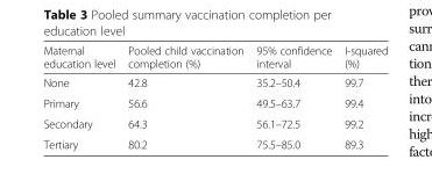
<table><thead><tr><td>Maternal education level</td><td>Pooled child vaccination completion (%)</td><td>95% confidence interval</td><td>I-squared (%)</td></tr></thead><tbody><tr><td>None</td><td>42.8</td><td>35.2–50.4</td><td>99.7</td></tr><tr><td>Primary</td><td>56.6</td><td>49.5–63.7</td><td>99.4</td></tr><tr><td>Secondary</td><td>64.3</td><td>56.1–72.5</td><td>99.2</td></tr><tr><td>Tertiary</td><td>80.2</td><td>75.5–85.0</td><td>89.3</td></tr></tbody></table>